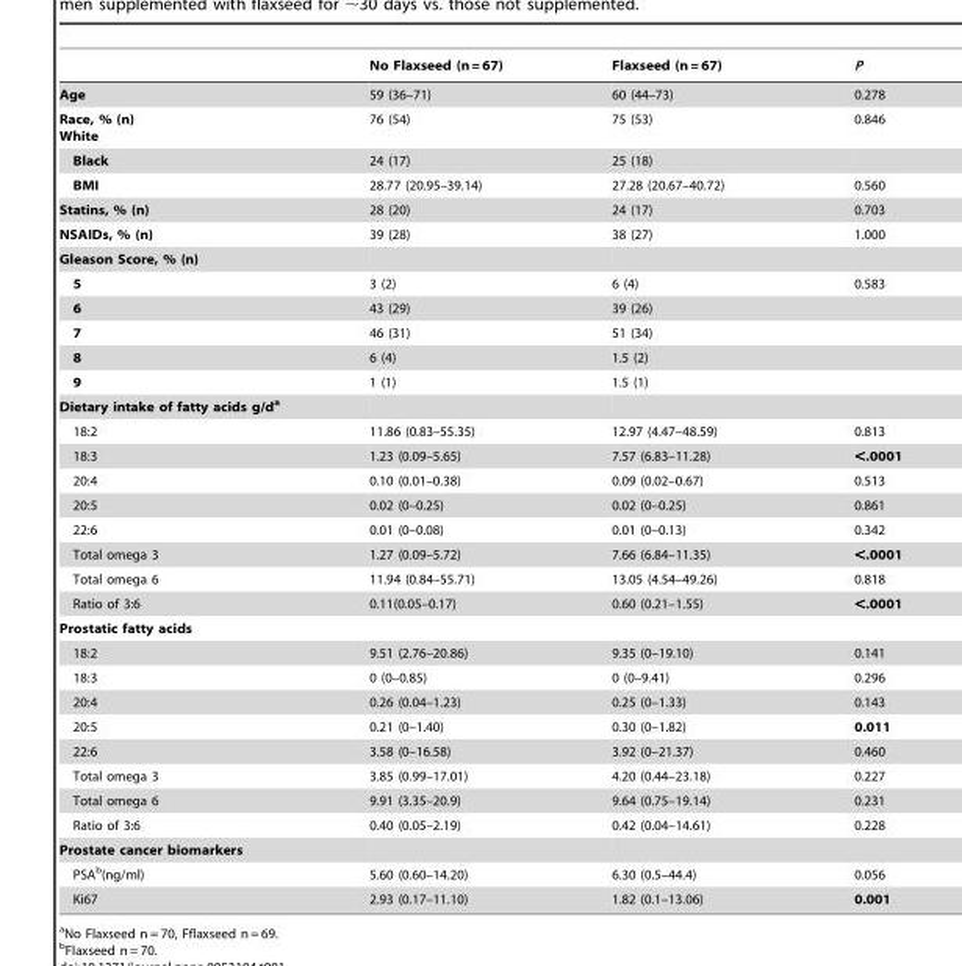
<table><thead><tr><td></td><td>No Flaxseed (n = 67)</td><td>Flaxseed (n = 67)</td><td>P</td></tr></thead><tbody><tr><td>Age</td><td>59 (36–71)</td><td>60 (44–73)</td><td>0.278</td></tr><tr><td>Race, % (n) White</td><td>76 (54)</td><td>75 (53)</td><td>0.846</td></tr><tr><td>Black</td><td>24 (17)</td><td>25 (18)</td><td></td></tr><tr><td>BMI</td><td>28.77 (20.95–39.14)</td><td>27.28 (20.67–40.72)</td><td>0.560</td></tr><tr><td>Statins, % (n)</td><td>28 (20)</td><td>24 (17)</td><td>0.703</td></tr><tr><td>NSAIDs, % (n)</td><td>39 (28)</td><td>38 (27)</td><td>1.000</td></tr><tr><td colspan="4">Gleason Score, % (n)</td></tr><tr><td>5</td><td>3 (2)</td><td>6 (4)</td><td>0.583</td></tr><tr><td>6</td><td>43 (29)</td><td>39 (26)</td><td></td></tr><tr><td>7</td><td>46 (31)</td><td>51 (34)</td><td></td></tr><tr><td>8</td><td>6 (4)</td><td>1.5 (2)</td><td></td></tr><tr><td>9</td><td>1 (1)</td><td>1.5 (1)</td><td></td></tr><tr><td colspan="4">Dietary intake of fatty acids g/da</td></tr><tr><td>18:2</td><td>11.86 (0.83–55.35)</td><td>12.97 (4.47–48.59)</td><td>0.813</td></tr><tr><td>18:3</td><td>1.23 (0.09–5.65)</td><td>7.57 (6.83–11.28)</td><td>&lt;.0001</td></tr><tr><td>20:4</td><td>0.10 (0.01–0.38)</td><td>0.09 (0.02–0.67)</td><td>0.513</td></tr><tr><td>20:5</td><td>0.02 (0–0.25)</td><td>0.02 (0–0.25)</td><td>0.861</td></tr><tr><td>22:6</td><td>0.01 (0–0.08)</td><td>0.01 (0–0.13)</td><td>0.342</td></tr><tr><td>Total omega 3</td><td>1.27 (0.09–5.72)</td><td>7.66 (6.84–11.35)</td><td>&lt;.0001</td></tr><tr><td>Total omega 6</td><td>11.94 (0.84–55.71)</td><td>13.05 (4.54–49.26)</td><td>0.818</td></tr><tr><td>Ratio of 3:6</td><td>0.11(0.05–0.17)</td><td>0.60 (0.21–1.55)</td><td>&lt;.0001</td></tr><tr><td colspan="4">Prostatic fatty acids</td></tr><tr><td>18:2</td><td>9.51 (2.76–20.86)</td><td>9.35 (0–19.10)</td><td>0.141</td></tr><tr><td>18:3</td><td>0 (0–0.85)</td><td>0 (0–9.41)</td><td>0.296</td></tr><tr><td>20:4</td><td>0.26 (0.04–1.23)</td><td>0.25 (0–1.33)</td><td>0.143</td></tr><tr><td>20:5</td><td>0.21 (0–1.40)</td><td>0.30 (0–1.82)</td><td>0.011</td></tr><tr><td>22:6</td><td>3.58 (0–16.58)</td><td>3.92 (0–21.37)</td><td>0.460</td></tr><tr><td>Total omega 3</td><td>3.85 (0.99–17.01)</td><td>4.20 (0.44–23.18)</td><td>0.227</td></tr><tr><td>Total omega 6</td><td>9.91 (3.35–20.9)</td><td>9.64 (0.75–19.14)</td><td>0.231</td></tr><tr><td>Ratio of 3:6</td><td>0.40 (0.05–2.19)</td><td>0.42 (0.04–14.61)</td><td>0.228</td></tr><tr><td colspan="4">Prostate cancer biomarkers</td></tr><tr><td>PSA<sup>b</sup>(ng/ml)</td><td>5.60 (0.60–14.20)</td><td>6.30 (0.5–44.4)</td><td>0.056</td></tr><tr><td>Ki67</td><td>2.93 (0.17–11.10)</td><td>1.82 (0.1–13.06)</td><td>0.001</td></tr></tbody></table>